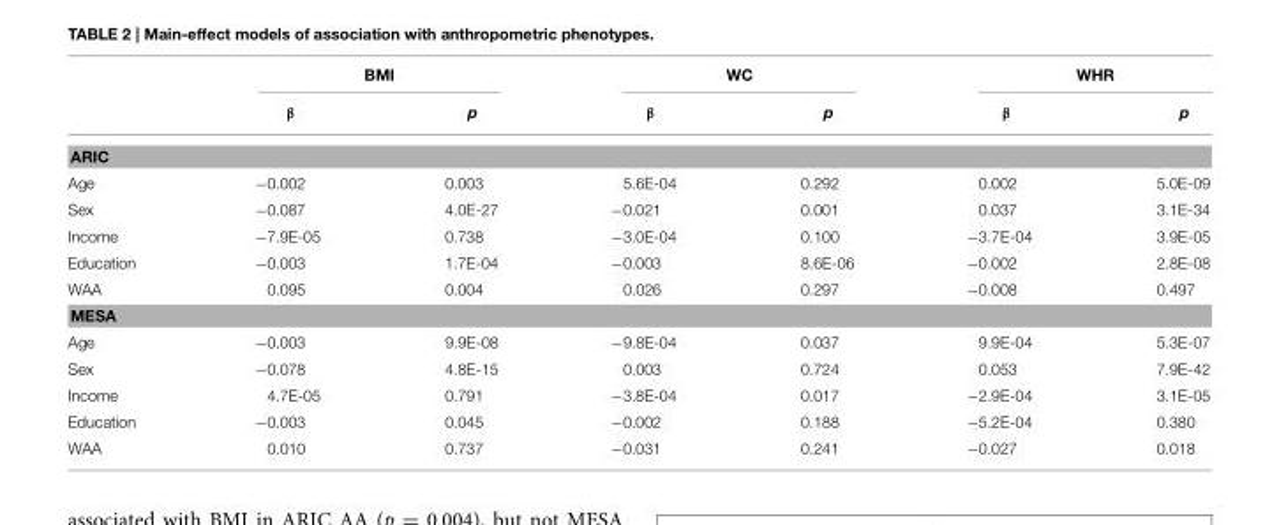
<table><thead><tr><td rowspan="2"></td><td colspan="2">BMI</td><td colspan="2">WC</td><td colspan="2">WHR</td></tr><tr><td>β</td><td>p</td><td>β</td><td>p</td><td>β</td><td>p</td></tr></thead><tbody><tr><td colspan="7">ARIC</td></tr><tr><td>Age</td><td>−0.002</td><td>0.003</td><td>5.6E-04</td><td>0.292</td><td>0.002</td><td>5.0E-09</td></tr><tr><td>Sex</td><td>−0.087</td><td>4.0E-27</td><td>−0.021</td><td>0.001</td><td>0.037</td><td>3.1E-34</td></tr><tr><td>Income</td><td>−7.9E-05</td><td>0.738</td><td>−3.0E-04</td><td>0.100</td><td>−3.7E-04</td><td>3.9E-05</td></tr><tr><td>Education</td><td>−0.003</td><td>1.7E-04</td><td>−0.003</td><td>8.6E-06</td><td>−0.002</td><td>2.8E-08</td></tr><tr><td>WAA</td><td>0.095</td><td>0.004</td><td>0.026</td><td>0.297</td><td>−0.008</td><td>0.497</td></tr><tr><td colspan="7">MESA</td></tr><tr><td>Age</td><td>−0.003</td><td>9.9E-08</td><td>−9.8E-04</td><td>0.037</td><td>9.9E-04</td><td>5.3E-07</td></tr><tr><td>Sex</td><td>−0.078</td><td>4.8E-15</td><td>0.003</td><td>0.724</td><td>0.053</td><td>7.9E-42</td></tr><tr><td>Income</td><td>4.7E-05</td><td>0.791</td><td>−3.8E-04</td><td>0.017</td><td>−2.9E-04</td><td>3.1E-05</td></tr><tr><td>Education</td><td>−0.003</td><td>0.045</td><td>−0.002</td><td>0.188</td><td>−5.2E-04</td><td>0.380</td></tr><tr><td>WAA</td><td>0.010</td><td>0.737</td><td>−0.031</td><td>0.241</td><td>−0.027</td><td>0.018</td></tr></tbody></table>